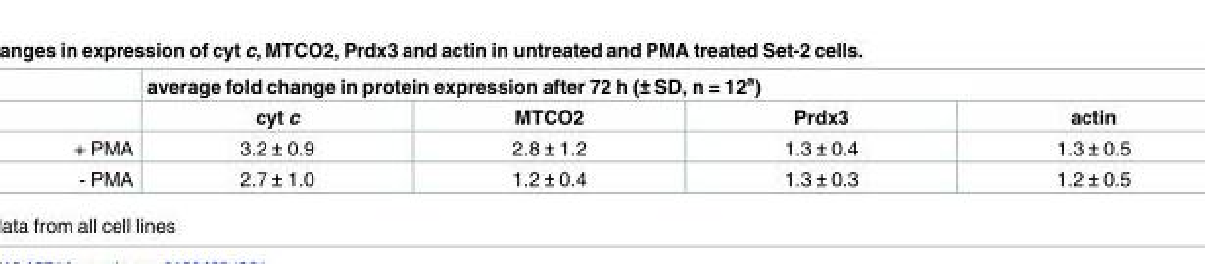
<table><thead><tr><td rowspan="2"></td><td colspan="4">average fold change in protein expression after 72 h (± SD, n = 12<sup>a</sup>)</td></tr><tr><td>cyt c</td><td>MTCO2</td><td>Prdx3</td><td>actin</td></tr></thead><tbody><tr><td>+ PMA</td><td>3.2 ± 0.9</td><td>2.8 ± 1.2</td><td>1.3 ± 0.4</td><td>1.3 ± 0.5</td></tr><tr><td>- PMA</td><td>2.7 ± 1.0</td><td>1.2 ± 0.4</td><td>1.3 ± 0.3</td><td>1.2 ± 0.5</td></tr></tbody></table>